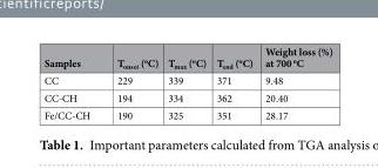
<table><thead><tr><td>Samples</td><td>T<sub>onset</sub> (<sup>o</sup>C)</td><td>T<sub>max</sub> (<sup>o</sup>C)</td><td>T<sub>end</sub> (<sup>o</sup>C)</td><td>Weight loss (%) at 700 <sup>o</sup>C</td></tr></thead><tbody><tr><td>CC</td><td>229</td><td>339</td><td>371</td><td>9.48</td></tr><tr><td>CC-CH</td><td>194</td><td>334</td><td>362</td><td>20.40</td></tr><tr><td>Fe/CC-CH</td><td>190</td><td>325</td><td>351</td><td>28.17</td></tr></tbody></table>